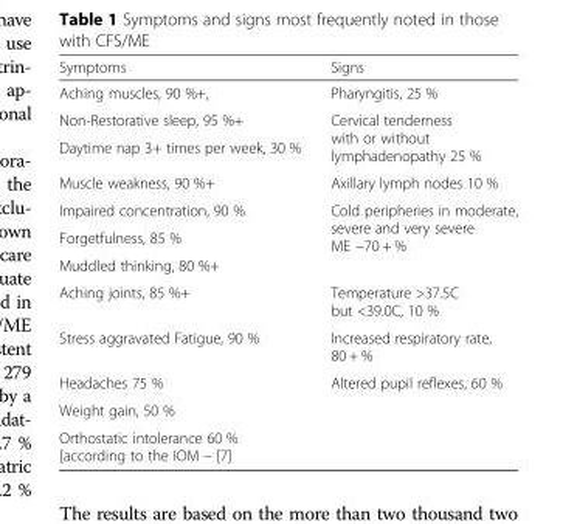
<table><thead><tr><td>Symptoms</td><td>Signs</td></tr></thead><tbody><tr><td>Aching muscles, 90 %+,</td><td>Pharyngitis, 25 %</td></tr><tr><td>Non-Restorative sleep, 95 %+</td><td rowspan="2">Cervical tenderness with or without lymphadenopathy 25 %</td></tr><tr><td>Daytime nap 3+ times per week, 30 %</td></tr><tr><td>Muscle weakness, 90 %+</td><td>Axillary lymph nodes 10 %</td></tr><tr><td>Impaired concentration, 90 %</td><td rowspan="3">Cold peripheries in moderate, severe and very severe ME −70 + %</td></tr><tr><td>Forgetfulness, 85 %</td></tr><tr><td>Muddled thinking, 80 %+</td></tr><tr><td>Aching joints, 85 %+</td><td>Temperature &gt;37.5C but &lt;39.0C, 10 %</td></tr><tr><td>Stress aggravated Fatigue, 90 %</td><td>Increased respiratory rate, 80 + %</td></tr><tr><td>Headaches 75 %</td><td>Altered pupil reflexes, 60 %</td></tr><tr><td colspan="2">Weight gain, 50 %</td></tr><tr><td>Orthostatic intolerance 60 % [according to the IOM – [7]</td><td></td></tr></tbody></table>